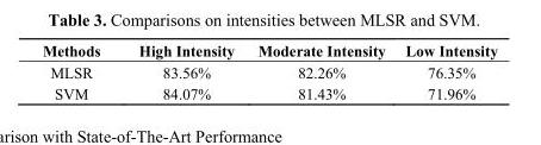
<table><thead><tr><td>Methods</td><td>High Intensity</td><td>Moderate Intensity</td><td>Low Intensity</td></tr></thead><tbody><tr><td>MLSR</td><td>83.56%</td><td>82.26%</td><td>76.35%</td></tr><tr><td>SVM</td><td>84.07%</td><td>81.43%</td><td>71.96%</td></tr></tbody></table>